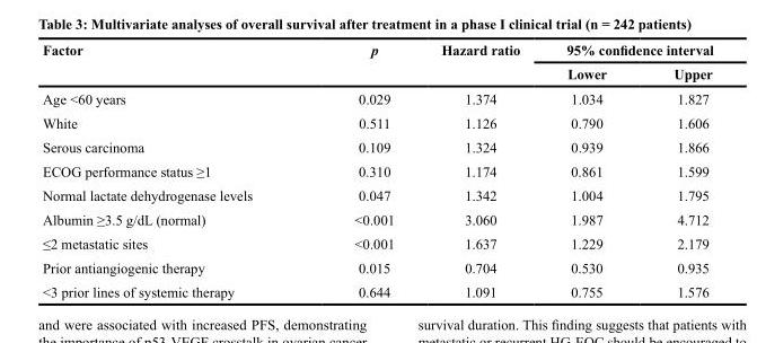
<table><thead><tr><td rowspan="2">Factor</td><td rowspan="2">p</td><td rowspan="2">Hazard ratio</td><td colspan="2">95% confidence interval</td></tr><tr><td>Lower</td><td>Upper</td></tr></thead><tbody><tr><td>Age &lt;60 years</td><td>0.029</td><td>1.374</td><td>1.034</td><td>1.827</td></tr><tr><td>White</td><td>0.511</td><td>1.126</td><td>0.790</td><td>1.606</td></tr><tr><td>Serous carcinoma</td><td>0.109</td><td>1.324</td><td>0.939</td><td>1.866</td></tr><tr><td>ECOG performance status ≥1</td><td>0.310</td><td>1.174</td><td>0.861</td><td>1.599</td></tr><tr><td>Normal lactate dehydrogenase levels</td><td>0.047</td><td>1.342</td><td>1.004</td><td>1.795</td></tr><tr><td>Albumin ≥3.5 g/dL (normal)</td><td>&lt;0.001</td><td>3.060</td><td>1.987</td><td>4.712</td></tr><tr><td>≤2 metastatic sites</td><td>&lt;0.001</td><td>1.637</td><td>1.229</td><td>2.179</td></tr><tr><td>Prior antiangiogenic therapy</td><td>0.015</td><td>0.704</td><td>0.530</td><td>0.935</td></tr><tr><td>&lt;3 prior lines of systemic therapy</td><td>0.644</td><td>1.091</td><td>0.755</td><td>1.576</td></tr></tbody></table>